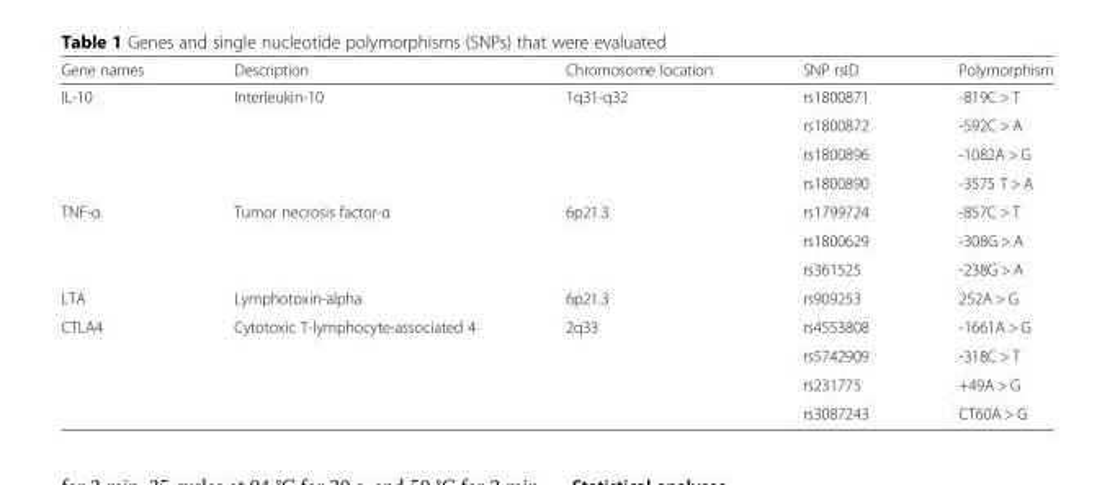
<table><thead><tr><td>Gene names</td><td>Description</td><td>Chromosome location</td><td>SNP rsID</td><td>Polymorphism</td></tr></thead><tbody><tr><td rowspan="4">IL-10</td><td rowspan="4">Interleukin-10</td><td rowspan="4">1q31-q32</td><td>rs1800871</td><td>-819C &gt; T</td></tr><tr><td>rs1800872</td><td>-592C &gt; A</td></tr><tr><td>rs1800896</td><td>-1082A &gt; G</td></tr><tr><td>rs1800890</td><td>-3575 T &gt; A</td></tr><tr><td rowspan="3">TNF-α</td><td rowspan="3">Tumor necrosis factor-α</td><td rowspan="3">6p21.3</td><td>rs1799724</td><td>-857C &gt; T</td></tr><tr><td>rs1800629</td><td>-308G &gt; A</td></tr><tr><td>rs361525</td><td>-238G &gt; A</td></tr><tr><td>LTA</td><td>Lymphotoxin-alpha</td><td>6p21.3</td><td>rs909253</td><td>252A &gt; G</td></tr><tr><td rowspan="4">CTLA4</td><td rowspan="4">Cytotoxic T-lymphocyte-associated 4</td><td rowspan="4">2q33</td><td>rs4553808</td><td>-1661A &gt; G</td></tr><tr><td>rs5742909</td><td>-318C &gt; T</td></tr><tr><td>rs231775</td><td>+49A &gt; G</td></tr><tr><td>rs3087243</td><td>CT60A &gt; G</td></tr></tbody></table>